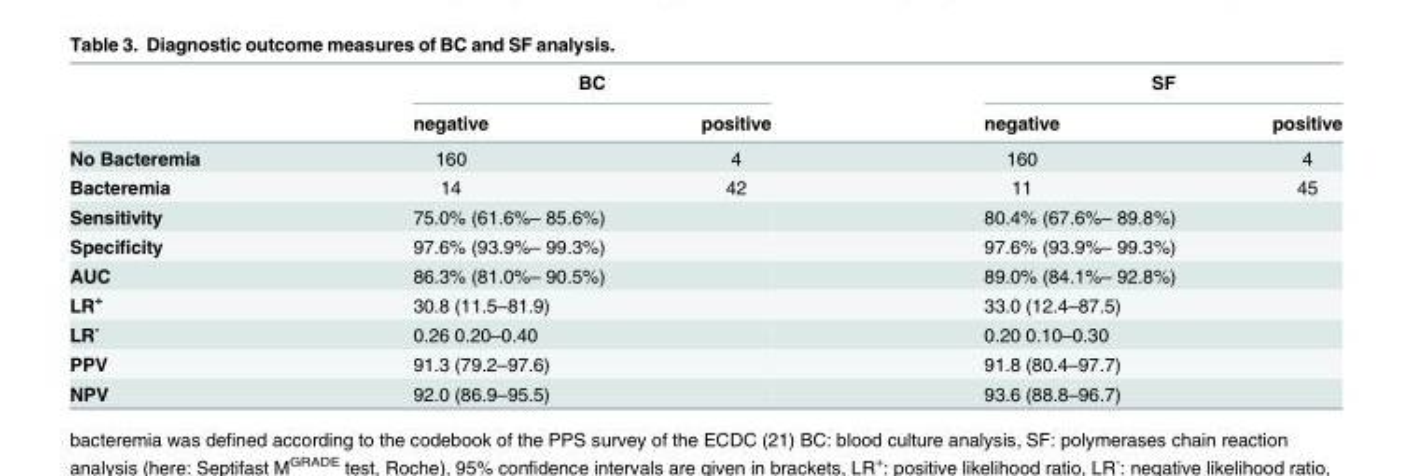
<table><thead><tr><td rowspan="2"></td><td colspan="2">BC</td><td colspan="2">SF</td></tr><tr><td>negative</td><td>positive</td><td>negative</td><td>positive</td></tr></thead><tbody><tr><td>No Bacteremia</td><td>160</td><td>4</td><td>160</td><td>4</td></tr><tr><td>Bacteremia</td><td>14</td><td>42</td><td>11</td><td>45</td></tr><tr><td>Sensitivity</td><td colspan="2">75.0% (61.6%– 85.6%)</td><td colspan="2">80.4% (67.6%– 89.8%)</td></tr><tr><td>Specificity</td><td colspan="2">97.6% (93.9%– 99.3%)</td><td colspan="2">97.6% (93.9%– 99.3%)</td></tr><tr><td>AUC</td><td colspan="2">86.3% (81.0%– 90.5%)</td><td colspan="2">89.0% (84.1%– 92.8%)</td></tr><tr><td>LR<sup>+</sup></td><td colspan="2">30.8 (11.5–81.9)</td><td colspan="2">33.0 (12.4–87.5)</td></tr><tr><td>LR<sup>-</sup></td><td colspan="2">0.26 0.20–0.40</td><td colspan="2">0.20 0.10–0.30</td></tr><tr><td>PPV</td><td colspan="2">91.3 (79.2–97.6)</td><td colspan="2">91.8 (80.4–97.7)</td></tr><tr><td>NPV</td><td colspan="2">92.0 (86.9–95.5)</td><td colspan="2">93.6 (88.8–96.7)</td></tr></tbody></table>